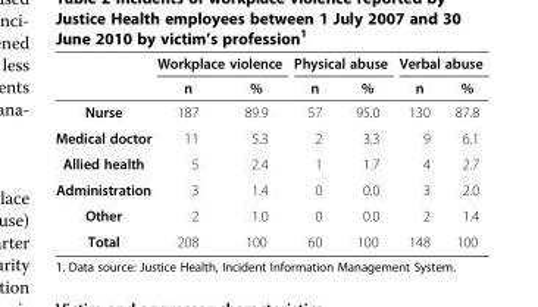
<table><thead><tr><td rowspan="2"></td><td colspan="2">Workplace violence</td><td colspan="2">Physical abuse</td><td colspan="2">Verbal abuse</td></tr><tr><td>n</td><td>%</td><td>n</td><td>%</td><td>n</td><td>%</td></tr></thead><tbody><tr><td>Nurse</td><td>187</td><td>89.9</td><td>57</td><td>95.0</td><td>130</td><td>87.8</td></tr><tr><td>Medical doctor</td><td>11</td><td>5.3</td><td>2</td><td>3.3</td><td>9</td><td>6.1</td></tr><tr><td>Allied health</td><td>5</td><td>2.4</td><td>1</td><td>1.7</td><td>4</td><td>2.7</td></tr><tr><td>Administration</td><td>3</td><td>1.4</td><td>0</td><td>0.0</td><td>3</td><td>2.0</td></tr><tr><td>Other</td><td>2</td><td>1.0</td><td>0</td><td>0.0</td><td>2</td><td>1.4</td></tr><tr><td>Total</td><td>208</td><td>100</td><td>60</td><td>100</td><td>148</td><td>100</td></tr></tbody></table>